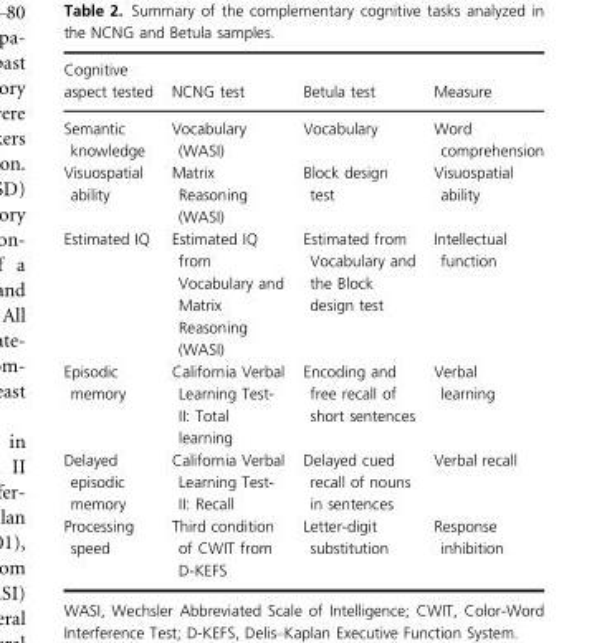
<table><thead><tr><td>Cognitive aspect tested</td><td>NCNG test</td><td>Betula test</td><td>Measure</td></tr></thead><tbody><tr><td>Semantic knowledge</td><td>Vocabulary (WASI)</td><td>Vocabulary</td><td>Word comprehension</td></tr><tr><td>Visuospatial ability</td><td>Matrix Reasoning (WASI)</td><td>Block design test</td><td>Visuospatial ability</td></tr><tr><td>Estimated IQ</td><td>Estimated IQ from Vocabulary and Matrix Reasoning (WASI)</td><td>Estimated from Vocabulary and the Block design test</td><td>Intellectual function</td></tr><tr><td>Episodic memory</td><td>California Verbal Learning Test- II: Total learning</td><td>Encoding and free recall of short sentences</td><td>Verbal learning</td></tr><tr><td>Delayed episodic memory</td><td>California Verbal Learning Test- II: Recall</td><td>Delayed cued recall of nouns in sentences</td><td>Verbal recall</td></tr><tr><td>Processing speed</td><td>Third condition of CWIT from D-KEFS</td><td>Letter-digit substitution</td><td>Response inhibition</td></tr></tbody></table>